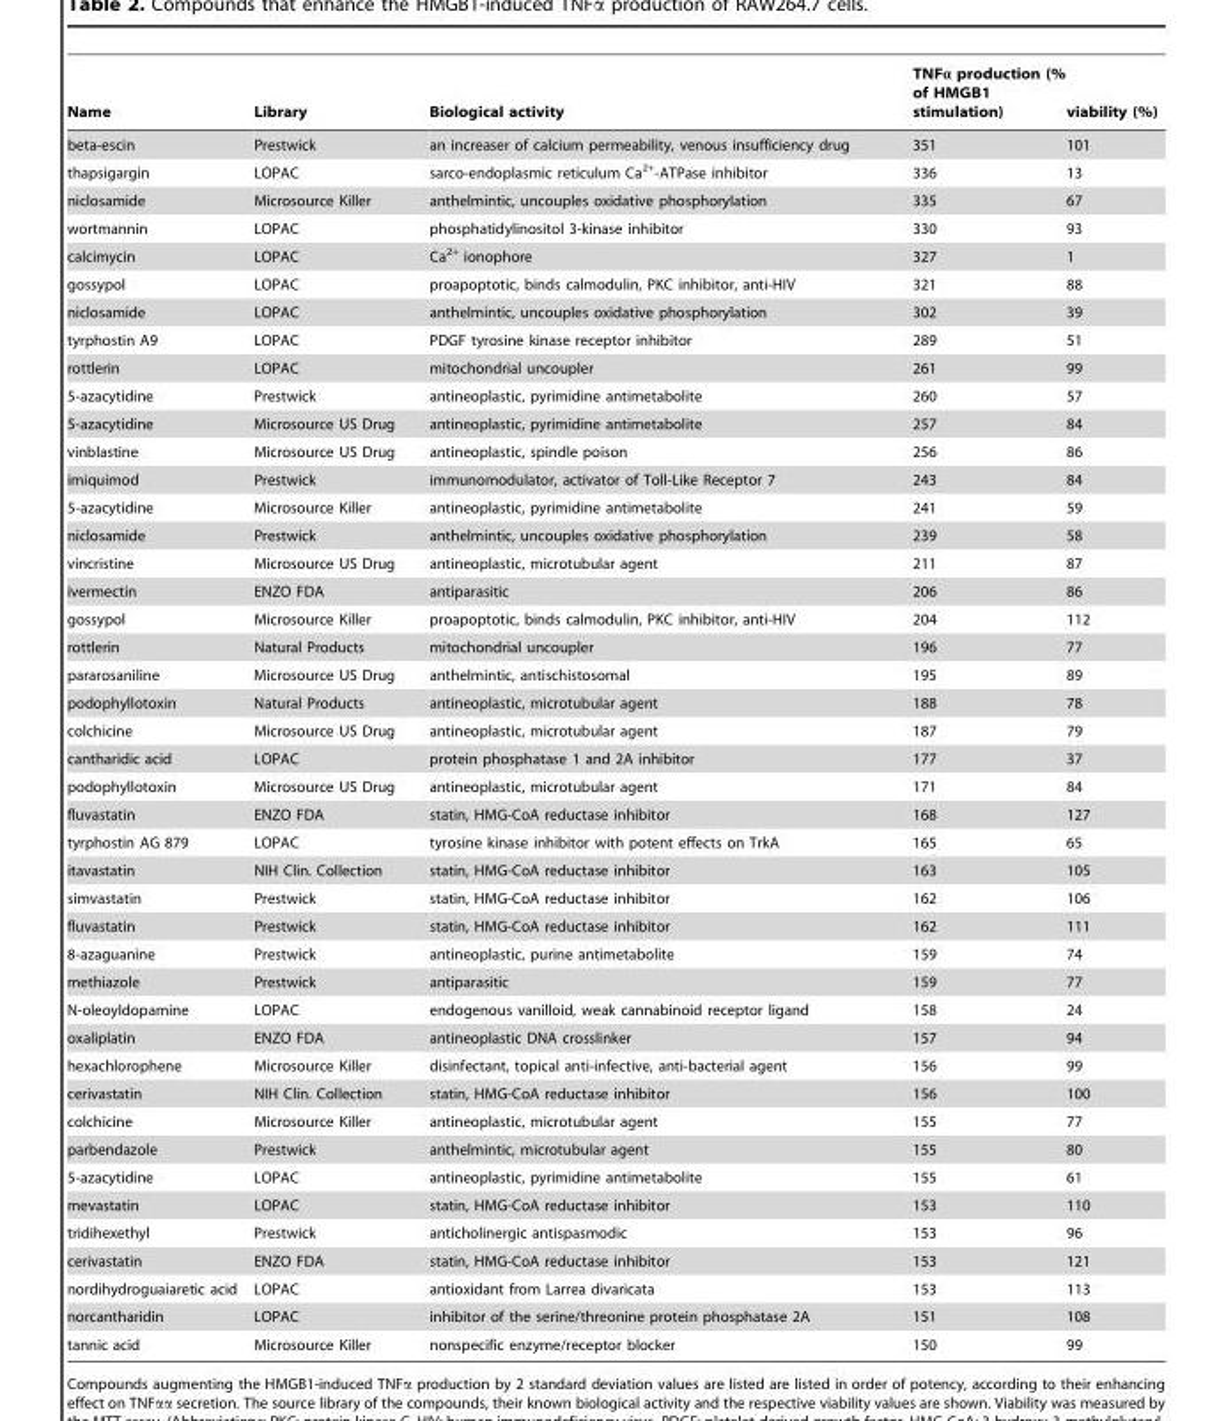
<table><thead><tr><td>Name</td><td>Library</td><td>Biological activity</td><td>TNFα production (% of HMGB1 stimulation)</td><td>viability (%)</td></tr></thead><tbody><tr><td>beta-escin</td><td>Prestwick</td><td>an increaser of calcium permeability, venous insufficiency drug</td><td>351</td><td>101</td></tr><tr><td>thapsigargin</td><td>LOPAC</td><td>sarco-endoplasmic reticulum Ca<sup>2+</sup>-ATPase inhibitor</td><td>336</td><td>13</td></tr><tr><td>niclosamide</td><td>Microsource Killer</td><td>anthelmintic, uncouples oxidative phosphorylation</td><td>335</td><td>67</td></tr><tr><td>wortmannin</td><td>LOPAC</td><td>phosphatidylinositol 3-kinase inhibitor</td><td>330</td><td>93</td></tr><tr><td>calcimycin</td><td>LOPAC</td><td>Ca<sup>2+</sup> ionophore</td><td>327</td><td>1</td></tr><tr><td>gossypol</td><td>LOPAC</td><td>proapoptotic, binds calmodulin, PKC inhibitor, anti-HIV</td><td>321</td><td>88</td></tr><tr><td>niclosamide</td><td>LOPAC</td><td>anthelmintic, uncouples oxidative phosphorylation</td><td>302</td><td>39</td></tr><tr><td>tyrphostin A9</td><td>LOPAC</td><td>PDGF tyrosine kinase receptor inhibitor</td><td>289</td><td>51</td></tr><tr><td>rottlerin</td><td>LOPAC</td><td>mitochondrial uncoupler</td><td>261</td><td>99</td></tr><tr><td>5-azacytidine</td><td>Prestwick</td><td>antineoplastic, pyrimidine antimetabolite</td><td>260</td><td>57</td></tr><tr><td>5-azacytidine</td><td>Microsource US Drug</td><td>antineoplastic, pyrimidine antimetabolite</td><td>257</td><td>84</td></tr><tr><td>vinblastine</td><td>Microsource US Drug</td><td>antineoplastic, spindle poison</td><td>256</td><td>86</td></tr><tr><td>imiquimod</td><td>Prestwick</td><td>immunomodulator, activator of Toll-Like Receptor 7</td><td>243</td><td>84</td></tr><tr><td>5-azacytidine</td><td>Microsource Killer</td><td>antineoplastic, pyrimidine antimetabolite</td><td>241</td><td>59</td></tr><tr><td>niclosamide</td><td>Prestwick</td><td>anthelmintic, uncouples oxidative phosphorylation</td><td>239</td><td>58</td></tr><tr><td>vincristine</td><td>Microsource US Drug</td><td>antineoplastic, microtubular agent</td><td>211</td><td>87</td></tr><tr><td>ivermectin</td><td>ENZO FDA</td><td>antiparasitic</td><td>206</td><td>86</td></tr><tr><td>gossypol</td><td>Microsource Killer</td><td>proapoptotic, binds calmodulin, PKC inhibitor, anti-HIV</td><td>204</td><td>112</td></tr><tr><td>rottlerin</td><td>Natural Products</td><td>mitochondrial uncoupler</td><td>196</td><td>77</td></tr><tr><td>pararosaniline</td><td>Microsource US Drug</td><td>anthelmintic, antischistosomal</td><td>195</td><td>89</td></tr><tr><td>podophyllotoxin</td><td>Natural Products</td><td>antineoplastic, microtubular agent</td><td>188</td><td>78</td></tr><tr><td>colchicine</td><td>Microsource US Drug</td><td>antineoplastic, microtubular agent</td><td>187</td><td>79</td></tr><tr><td>cantharidic acid</td><td>LOPAC</td><td>protein phosphatase 1 and 2A inhibitor</td><td>177</td><td>37</td></tr><tr><td>podophyllotoxin</td><td>Microsource US Drug</td><td>antineoplastic, microtubular agent</td><td>171</td><td>84</td></tr><tr><td>fluvastatin</td><td>ENZO FDA</td><td>statin, HMG-CoA reductase inhibitor</td><td>168</td><td>127</td></tr><tr><td>tyrphostin AG 879</td><td>LOPAC</td><td>tyrosine kinase inhibitor with potent effects on TrkA</td><td>165</td><td>65</td></tr><tr><td>itavastatin</td><td>NIH Clin. Collection</td><td>statin, HMG-CoA reductase inhibitor</td><td>163</td><td>105</td></tr><tr><td>simvastatin</td><td>Prestwick</td><td>statin, HMG-CoA reductase inhibitor</td><td>162</td><td>106</td></tr><tr><td>fluvastatin</td><td>Prestwick</td><td>statin, HMG-CoA reductase inhibitor</td><td>162</td><td>111</td></tr><tr><td>8-azaguanine</td><td>Prestwick</td><td>antineoplastic, purine antimetabolite</td><td>159</td><td>74</td></tr><tr><td>methiazole</td><td>Prestwick</td><td>antiparasitic</td><td>159</td><td>77</td></tr><tr><td>N-oleoyldopamine</td><td>LOPAC</td><td>endogenous vanilloid, weak cannabinoid receptor ligand</td><td>158</td><td>24</td></tr><tr><td>oxaliplatin</td><td>ENZO FDA</td><td>antineoplastic DNA crosslinker</td><td>157</td><td>94</td></tr><tr><td>hexachlorophene</td><td>Microsource Killer</td><td>disinfectant, topical anti-infective, anti-bacterial agent</td><td>156</td><td>99</td></tr><tr><td>cerivastatin</td><td>NIH Clin. Collection</td><td>statin, HMG-CoA reductase inhibitor</td><td>156</td><td>100</td></tr><tr><td>colchicine</td><td>Microsource Killer</td><td>antineoplastic, microtubular agent</td><td>155</td><td>77</td></tr><tr><td>parbendazole</td><td>Prestwick</td><td>anthelmintic, microtubular agent</td><td>155</td><td>80</td></tr><tr><td>5-azacytidine</td><td>LOPAC</td><td>antineoplastic, pyrimidine antimetabolite</td><td>155</td><td>61</td></tr><tr><td>mevastatin</td><td>LOPAC</td><td>statin, HMG-CoA reductase inhibitor</td><td>153</td><td>110</td></tr><tr><td>tridihexethyl</td><td>Prestwick</td><td>anticholinergic antispasmodic</td><td>153</td><td>96</td></tr><tr><td>cerivastatin</td><td>ENZO FDA</td><td>statin, HMG-CoA reductase inhibitor</td><td>153</td><td>121</td></tr><tr><td>nordihydroguaiaretic acid</td><td>LOPAC</td><td>antioxidant from Larrea divaricata</td><td>153</td><td>113</td></tr><tr><td>norcantharidin</td><td>LOPAC</td><td>inhibitor of the serine/threonine protein phosphatase 2A</td><td>151</td><td>108</td></tr><tr><td>tannic acid</td><td>Microsource Killer</td><td>nonspecific enzyme/receptor blocker</td><td>150</td><td>99</td></tr></tbody></table>